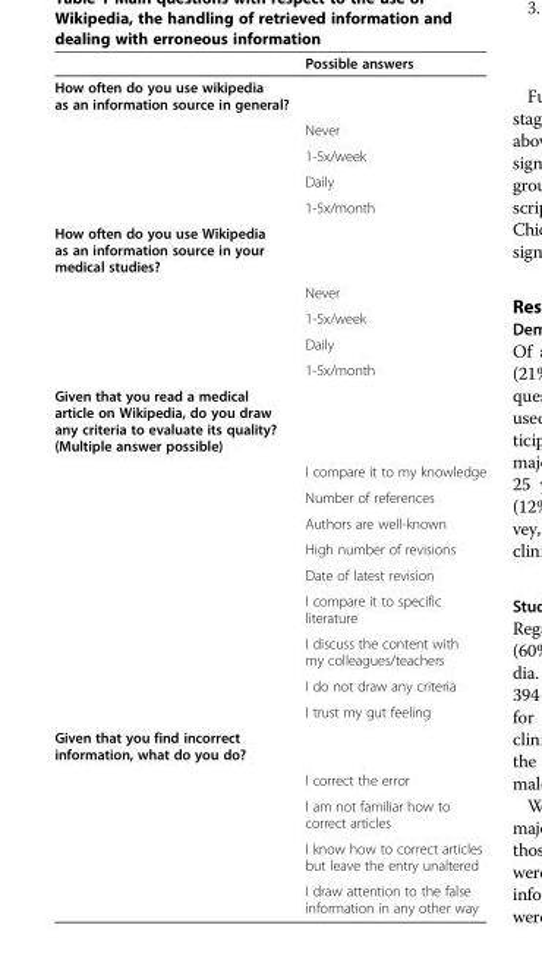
<table><thead><tr><td></td><td>Possible answers</td></tr></thead><tbody><tr><td colspan="2">How often do you use wikipedia as an information source in general?</td></tr><tr><td></td><td>Never</td></tr><tr><td></td><td>1-5x/week</td></tr><tr><td></td><td>Daily</td></tr><tr><td></td><td>1-5x/month</td></tr><tr><td colspan="2">How often do you use Wikipedia as an information source in your medical studies?</td></tr><tr><td></td><td>Never</td></tr><tr><td></td><td>1-5x/week</td></tr><tr><td></td><td>Daily</td></tr><tr><td></td><td>1-5x/month</td></tr><tr><td colspan="2">Given that you read a medical article on Wikipedia, do you draw any criteria to evaluate its quality? (Multiple answer possible)</td></tr><tr><td></td><td>I compare it to my knowledge</td></tr><tr><td></td><td>Number of references</td></tr><tr><td></td><td>Authors are well-known</td></tr><tr><td></td><td>High number of revisions</td></tr><tr><td></td><td>Date of latest revision</td></tr><tr><td></td><td>I compare it to specific literature</td></tr><tr><td></td><td>I discuss the content with my colleagues/teachers</td></tr><tr><td></td><td>I do not draw any criteria</td></tr><tr><td></td><td>I trust my gut feeling</td></tr><tr><td colspan="2">Given that you find incorrect information, what do you do?</td></tr><tr><td></td><td>I correct the error</td></tr><tr><td></td><td>I am not familiar how to correct articles</td></tr><tr><td></td><td>I know how to correct articles but leave the entry unaltered</td></tr><tr><td></td><td>I draw attention to the false information in any other way</td></tr></tbody></table>